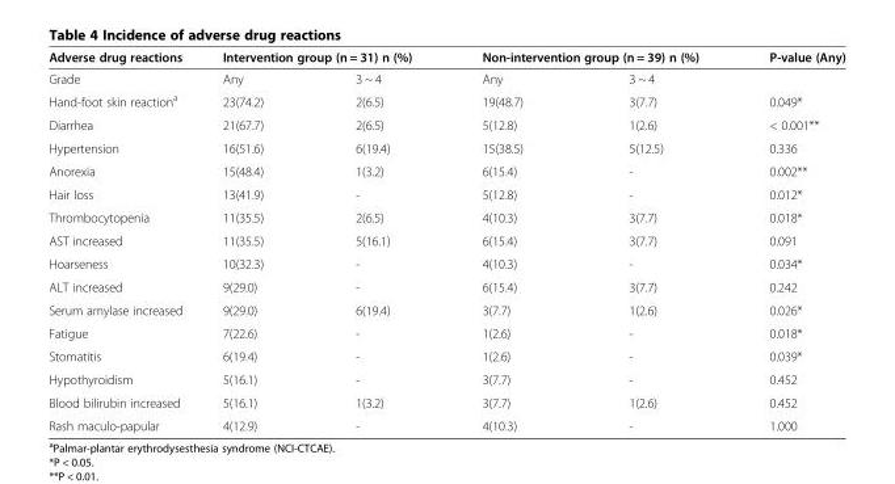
<table><thead><tr><td rowspan="2">Adverse drug reactions Grade</td><td colspan="2">Intervention group (n = 31) n (%)</td><td colspan="2">Non-intervention group (n = 39) n (%)</td><td rowspan="2">P-value (Any)</td></tr><tr><td>Any</td><td>3 ~ 4</td><td>Any</td><td>3 ~ 4</td></tr></thead><tbody><tr><td>Hand-foot skin reaction<sup>a</sup></td><td>23(74.2)</td><td>2(6.5)</td><td>19(48.7)</td><td>3(7.7)</td><td>0.049*</td></tr><tr><td>Diarrhea</td><td>21(67.7)</td><td>2(6.5)</td><td>5(12.8)</td><td>1(2.6)</td><td>&lt; 0.001**</td></tr><tr><td>Hypertension</td><td>16(51.6)</td><td>6(19.4)</td><td>15(38.5)</td><td>5(12.5)</td><td>0.336</td></tr><tr><td>Anorexia</td><td>15(48.4)</td><td>1(3.2)</td><td>6(15.4)</td><td>-</td><td>0.002**</td></tr><tr><td>Hair loss</td><td>13(41.9)</td><td>-</td><td>5(12.8)</td><td>-</td><td>0.012*</td></tr><tr><td>Thrombocytopenia</td><td>11(35.5)</td><td>2(6.5)</td><td>4(10.3)</td><td>3(7.7)</td><td>0.018*</td></tr><tr><td>AST increased</td><td>11(35.5)</td><td>5(16.1)</td><td>6(15.4)</td><td>3(7.7)</td><td>0.091</td></tr><tr><td>Hoarseness</td><td>10(32.3)</td><td>-</td><td>4(10.3)</td><td>-</td><td>0.034*</td></tr><tr><td>ALT increased</td><td>9(29.0)</td><td>-</td><td>6(15.4)</td><td>3(7.7)</td><td>0.242</td></tr><tr><td>Serum amylase increased</td><td>9(29.0)</td><td>6(19.4)</td><td>3(7.7)</td><td>1(2.6)</td><td>0.026*</td></tr><tr><td>Fatigue</td><td>7(22.6)</td><td>-</td><td>1(2.6)</td><td>-</td><td>0.018*</td></tr><tr><td>Stomatitis</td><td>6(19.4)</td><td>-</td><td>1(2.6)</td><td>-</td><td>0.039*</td></tr><tr><td>Hypothyroidism</td><td>5(16.1)</td><td>-</td><td>3(7.7)</td><td>-</td><td>0.452</td></tr><tr><td>Blood bilirubin increased</td><td>5(16.1)</td><td>1(3.2)</td><td>3(7.7)</td><td>1(2.6)</td><td>0.452</td></tr><tr><td>Rash maculo-papular</td><td>4(12.9)</td><td>-</td><td>4(10.3)</td><td>-</td><td>1.000</td></tr></tbody></table>